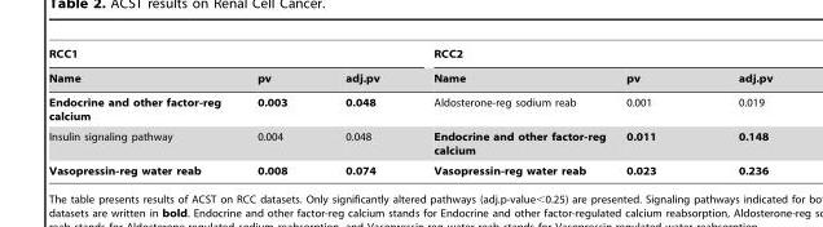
<table><thead><tr><td colspan="3">RCC1</td><td colspan="3">RCC2</td></tr><tr><td>Name</td><td>pv</td><td>adj.pv</td><td>Name</td><td>pv</td><td>adj.pv</td></tr></thead><tbody><tr><td>Endocrine and other factor-reg calcium</td><td>0.003</td><td>0.048</td><td>Aldosterone-reg sodium reab</td><td>0.001</td><td>0.019</td></tr><tr><td>Insulin signaling pathway</td><td>0.004</td><td>0.048</td><td>Endocrine and other factor-reg calcium</td><td>0.011</td><td>0.148</td></tr><tr><td>Vasopressin-reg water reab</td><td>0.008</td><td>0.074</td><td>Vasopressin-reg water reab</td><td>0.023</td><td>0.236</td></tr></tbody></table>